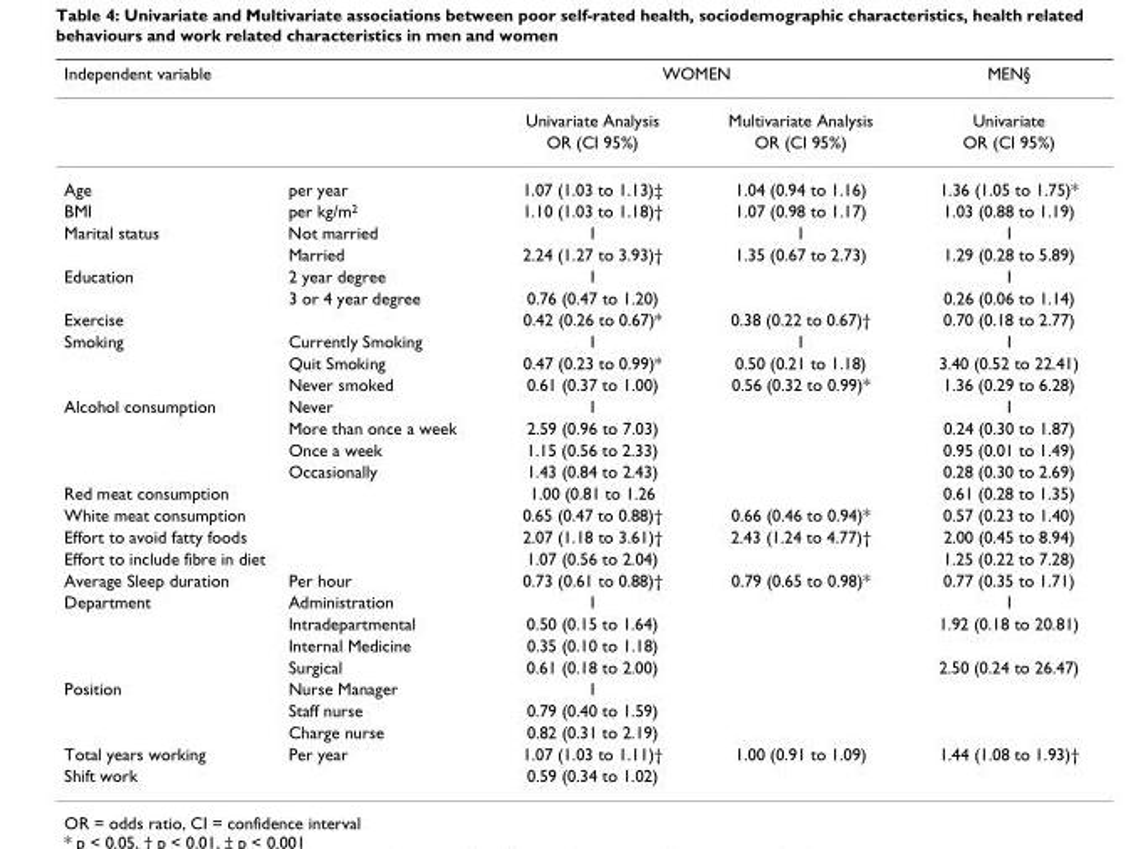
<table><thead><tr><td rowspan="2">Independent variable</td><td rowspan="2"></td><td colspan="2">WOMEN</td><td rowspan="2">MEN§ Univariate</td></tr><tr><td>Univariate Analysis</td><td>Multivariate Analysis</td></tr></thead><tbody><tr><td></td><td></td><td>OR (CI 95%)</td><td>OR (CI 95%)</td><td>OR (CI 95%)</td></tr><tr><td>Age</td><td>per year</td><td>1.07 (1.03 to 1.13)‡</td><td>1.04 (0.94 to 1.16)</td><td>1.36 (1.05 to 1.75)*</td></tr><tr><td>BMI</td><td>per kg/m<sup>2</sup></td><td>1.10 (1.03 to 1.18)†</td><td>1.07 (0.98 to 1.17)</td><td>1.03 (0.88 to 1.19)</td></tr><tr><td rowspan="2">Marital status</td><td>Not married</td><td>1</td><td>1</td><td>1</td></tr><tr><td>Married</td><td>2.24 (1.27 to 3.93)†</td><td>1.35 (0.67 to 2.73)</td><td>1.29 (0.28 to 5.89)</td></tr><tr><td rowspan="2">Education</td><td>2 year degree</td><td>1</td><td></td><td>1</td></tr><tr><td>3 or 4 year degree</td><td>0.76 (0.47 to 1.20)</td><td></td><td>0.26 (0.06 to 1.14)</td></tr><tr><td>Exercise</td><td></td><td>0.42 (0.26 to 0.67)*</td><td>0.38 (0.22 to 0.67)†</td><td>0.70 (0.18 to 2.77)</td></tr><tr><td rowspan="3">Smoking</td><td>Currently Smoking</td><td>1</td><td>1</td><td>1</td></tr><tr><td>Quit Smoking</td><td>0.47 (0.23 to 0.99)*</td><td>0.50 (0.21 to 1.18)</td><td>3.40 (0.52 to 22.41)</td></tr><tr><td>Never smoked</td><td>0.61 (0.37 to 1.00)</td><td>0.56 (0.32 to 0.99)*</td><td>1.36 (0.29 to 6.28)</td></tr><tr><td rowspan="4">Alcohol consumption</td><td>Never</td><td>1</td><td></td><td>1</td></tr><tr><td>More than once a week</td><td>2.59 (0.96 to 7.03)</td><td></td><td>0.24 (0.30 to 1.87)</td></tr><tr><td>Once a week</td><td>1.15 (0.56 to 2.33)</td><td></td><td>0.95 (0.01 to 1.49)</td></tr><tr><td>Occasionally</td><td>1.43 (0.84 to 2.43)</td><td></td><td>0.28 (0.30 to 2.69)</td></tr><tr><td>Red meat consumption</td><td></td><td>1.00 (0.81 to 1.26</td><td></td><td>0.61 (0.28 to 1.35)</td></tr><tr><td>White meat consumption</td><td></td><td>0.65 (0.47 to 0.88)†</td><td>0.66 (0.46 to 0.94)*</td><td>0.57 (0.23 to 1.40)</td></tr><tr><td>Effort to avoid fatty foods</td><td></td><td>2.07 (1.18 to 3.61)†</td><td>2.43 (1.24 to 4.77)†</td><td>2.00 (0.45 to 8.94)</td></tr><tr><td>Effort to include fibre in diet</td><td></td><td>1.07 (0.56 to 2.04)</td><td></td><td>1.25 (0.22 to 7.28)</td></tr><tr><td>Average Sleep duration</td><td>Per hour</td><td>0.73 (0.61 to 0.88)†</td><td>0.79 (0.65 to 0.98)*</td><td>0.77 (0.35 to 1.71)</td></tr><tr><td rowspan="4">Department</td><td>Administration</td><td>1</td><td></td><td>1</td></tr><tr><td>Intradepartmental</td><td>0.50 (0.15 to 1.64)</td><td></td><td>1.92 (0.18 to 20.81)</td></tr><tr><td>Internal Medicine</td><td>0.35 (0.10 to 1.18)</td><td></td><td></td></tr><tr><td>Surgical</td><td>0.61 (0.18 to 2.00)</td><td></td><td>2.50 (0.24 to 26.47)</td></tr><tr><td rowspan="3">Position</td><td>Nurse Manager</td><td>1</td><td></td><td></td></tr><tr><td>Staff nurse</td><td>0.79 (0.40 to 1.59)</td><td></td><td></td></tr><tr><td>Charge nurse</td><td>0.82 (0.31 to 2.19)</td><td></td><td></td></tr><tr><td>Total years working</td><td>Per year</td><td>1.07 (1.03 to 1.11)†</td><td>1.00 (0.91 to 1.09)</td><td>1.44 (1.08 to 1.93)†</td></tr><tr><td>Shift work</td><td></td><td>0.59 (0.34 to 1.02)</td><td></td><td></td></tr></tbody></table>